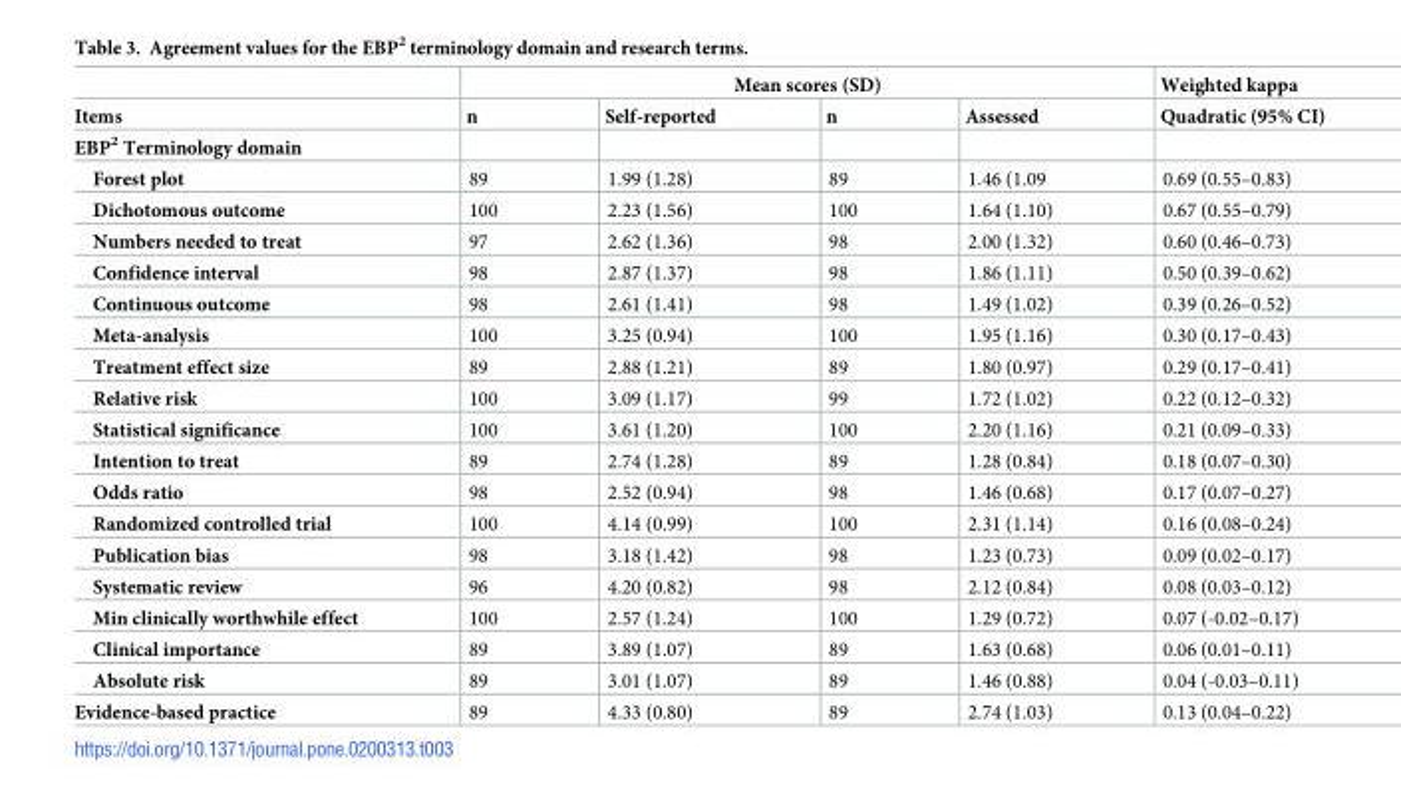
<table><thead><tr><td rowspan="2">Items</td><td colspan="4">Mean scores (SD)</td><td rowspan="2">Weighted kappa Quadratic (95% CI)</td></tr><tr><td>n</td><td>Self-reported</td><td>n</td><td>Assessed</td></tr></thead><tbody><tr><td colspan="6">EBP<sup>2</sup> Terminology domain</td></tr><tr><td>Forest plot</td><td>89</td><td>1.99 (1.28)</td><td>89</td><td>1.46 (1.09</td><td>0.69 (0.55–0.83)</td></tr><tr><td>Dichotomous outcome</td><td>100</td><td>2.23 (1.56)</td><td>100</td><td>1.64 (1.10)</td><td>0.67 (0.55–0.79)</td></tr><tr><td>Numbers needed to treat</td><td>97</td><td>2.62 (1.36)</td><td>98</td><td>2.00 (1.32)</td><td>0.60 (0.46–0.73)</td></tr><tr><td>Confidence interval</td><td>98</td><td>2.87 (1.37)</td><td>98</td><td>1.86 (1.11)</td><td>0.50 (0.39–0.62)</td></tr><tr><td>Continuous outcome</td><td>98</td><td>2.61 (1.41)</td><td>98</td><td>1.49 (1.02)</td><td>0.39 (0.26–0.52)</td></tr><tr><td>Meta-analysis</td><td>100</td><td>3.25 (0.94)</td><td>100</td><td>1.95 (1.16)</td><td>0.30 (0.17–0.43)</td></tr><tr><td>Treatment effect size</td><td>89</td><td>2.88 (1.21)</td><td>89</td><td>1.80 (0.97)</td><td>0.29 (0.17–0.41)</td></tr><tr><td>Relative risk</td><td>100</td><td>3.09 (1.17)</td><td>99</td><td>1.72 (1.02)</td><td>0.22 (0.12–0.32)</td></tr><tr><td>Statistical significance</td><td>100</td><td>3.61 (1.20)</td><td>100</td><td>2.20 (1.16)</td><td>0.21 (0.09–0.33)</td></tr><tr><td>Intention to treat</td><td>89</td><td>2.74 (1.28)</td><td>89</td><td>1.28 (0.84)</td><td>0.18 (0.07–0.30)</td></tr><tr><td>Odds ratio</td><td>98</td><td>2.52 (0.94)</td><td>98</td><td>1.46 (0.68)</td><td>0.17 (0.07–0.27)</td></tr><tr><td>Randomized controlled trial</td><td>100</td><td>4.14 (0.99)</td><td>100</td><td>2.31 (1.14)</td><td>0.16 (0.08–0.24)</td></tr><tr><td>Publication bias</td><td>98</td><td>3.18 (1.42)</td><td>98</td><td>1.23 (0.73)</td><td>0.09 (0.02–0.17)</td></tr><tr><td>Systematic review</td><td>96</td><td>4.20 (0.82)</td><td>98</td><td>2.12 (0.84)</td><td>0.08 (0.03–0.12)</td></tr><tr><td>Min clinically worthwhile effect</td><td>100</td><td>2.57 (1.24)</td><td>100</td><td>1.29 (0.72)</td><td>0.07 (-0.02–0.17)</td></tr><tr><td>Clinical importance</td><td>89</td><td>3.89 (1.07)</td><td>89</td><td>1.63 (0.68)</td><td>0.06 (0.01–0.11)</td></tr><tr><td>Absolute risk</td><td>89</td><td>3.01 (1.07)</td><td>89</td><td>1.46 (0.88)</td><td>0.04 (-0.03–0.11)</td></tr><tr><td>Evidence-based practice</td><td>89</td><td>4.33 (0.80)</td><td>89</td><td>2.74 (1.03)</td><td>0.13 (0.04–0.22)</td></tr></tbody></table>